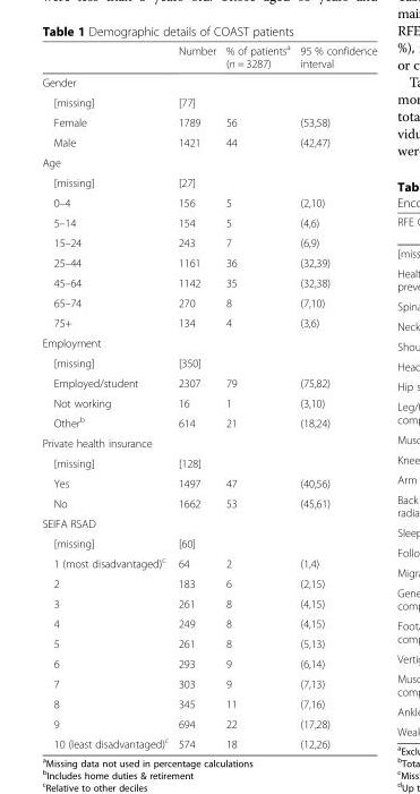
<table><thead><tr><td></td><td>Number</td><td>% of patients<sup>a</sup> (n = 3287)</td><td>95 % confidence interval</td></tr></thead><tbody><tr><td colspan="4">Gender</td></tr><tr><td>[missing]</td><td>[77]</td><td></td><td></td></tr><tr><td>Female</td><td>1789</td><td>56</td><td>(53,58)</td></tr><tr><td>Male</td><td>1421</td><td>44</td><td>(42,47)</td></tr><tr><td colspan="4">Age</td></tr><tr><td>[missing]</td><td>[27]</td><td></td><td></td></tr><tr><td>0–4</td><td>156</td><td>5</td><td>(2,10)</td></tr><tr><td>5–14</td><td>154</td><td>5</td><td>(4,6)</td></tr><tr><td>15–24</td><td>243</td><td>7</td><td>(6,9)</td></tr><tr><td>25–44</td><td>1161</td><td>36</td><td>(32,39)</td></tr><tr><td>45–64</td><td>1142</td><td>35</td><td>(32,38)</td></tr><tr><td>65–74</td><td>270</td><td>8</td><td>(7,10)</td></tr><tr><td>75+</td><td>134</td><td>4</td><td>(3,6)</td></tr><tr><td colspan="4">Employment</td></tr><tr><td>[missing]</td><td>[350]</td><td></td><td></td></tr><tr><td>Employed/student</td><td>2307</td><td>79</td><td>(75,82)</td></tr><tr><td>Not working</td><td>16</td><td>1</td><td>(3,10)</td></tr><tr><td>Other<sup>b</sup></td><td>614</td><td>21</td><td>(18,24)</td></tr><tr><td colspan="4">Private health insurance</td></tr><tr><td>[missing]</td><td>[128]</td><td></td><td></td></tr><tr><td>Yes</td><td>1497</td><td>47</td><td>(40,56)</td></tr><tr><td>No</td><td>1662</td><td>53</td><td>(45,61)</td></tr><tr><td colspan="4">SEIFA RSAD</td></tr><tr><td>[missing]</td><td>[60]</td><td></td><td></td></tr><tr><td>1 (most disadvantaged)<sup>c</sup></td><td>64</td><td>2</td><td>(1,4)</td></tr><tr><td>2</td><td>183</td><td>6</td><td>(2,15)</td></tr><tr><td>3</td><td>261</td><td>8</td><td>(4,15)</td></tr><tr><td>4</td><td>249</td><td>8</td><td>(4,15)</td></tr><tr><td>5</td><td>261</td><td>8</td><td>(5,13)</td></tr><tr><td>6</td><td>293</td><td>9</td><td>(6,14)</td></tr><tr><td>7</td><td>303</td><td>9</td><td>(7,13)</td></tr><tr><td>8</td><td>345</td><td>11</td><td>(7,16)</td></tr><tr><td>9</td><td>694</td><td>22</td><td>(17,28)</td></tr><tr><td>10 (least disadvantaged)<sup>c</sup></td><td>574</td><td>18</td><td>(12,26)</td></tr></tbody></table>